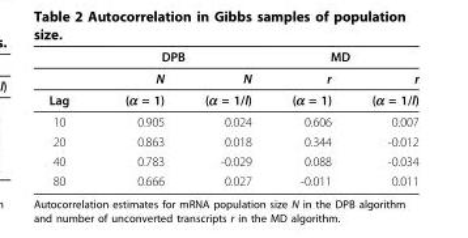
<table><thead><tr><td rowspan="2"></td><td colspan="2">DPB</td><td colspan="2">MD</td></tr><tr><td>N</td><td>N</td><td>r</td><td>r</td></tr></thead><tbody><tr><td>Lag</td><td>(α = 1)</td><td>(α = 1/l)</td><td>(α = 1)</td><td>(α = 1/l)</td></tr><tr><td>10</td><td>0.905</td><td>0.024</td><td>0.606</td><td>0.007</td></tr><tr><td>20</td><td>0.863</td><td>0.018</td><td>0.344</td><td>-0.012</td></tr><tr><td>40</td><td>0.783</td><td>-0.029</td><td>0.088</td><td>-0.034</td></tr><tr><td>80</td><td>0.666</td><td>0.027</td><td>-0.011</td><td>0.011</td></tr></tbody></table>